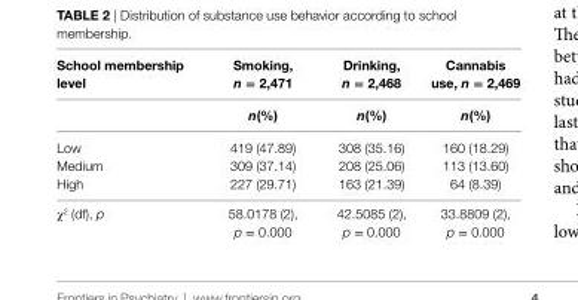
<table><thead><tr><td rowspan="2">school membership level</td><td rowspan="2">smoking, n = 2,471 n(%)</td><td rowspan="2">Drinking, n = 2,468 n(%)</td><td rowspan="2">cannabis use, n = 2,469 n(%)</td></tr><tr></tr></thead><tbody><tr><td>Low</td><td>419 (47.89)</td><td>308 (35.16)</td><td>160 (18.29)</td></tr><tr><td>Medium</td><td>309 (37.14)</td><td>208 (25.06)</td><td>113 (13.60)</td></tr><tr><td>High</td><td>227 (29.71)</td><td>163 (21.39)</td><td>64 (8.39)</td></tr><tr><td>χ<sup>2</sup> (df), p</td><td>58.0178 (2), p = 0.000</td><td>42.5085 (2), p = 0.000</td><td>33.8809 (2), p = 0.000</td></tr></tbody></table>